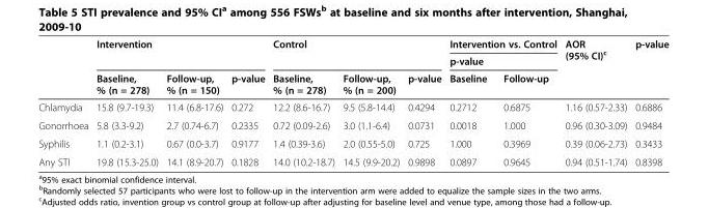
<table><thead><tr><td rowspan="3"></td><td rowspan="2" colspan="3">Intervention</td><td rowspan="2" colspan="3">Control</td><td rowspan="2" colspan="2">Intervention vs. Control p-value</td><td rowspan="3">AOR (95% CI)<sup>c</sup></td><td rowspan="3">p-value</td></tr><tr></tr><tr><td>Baseline, % (n = 278)</td><td>Follow-up, % (n = 150)</td><td>p-value</td><td>Baseline, % (n = 278)</td><td>Follow-up, % (n = 200)</td><td>p-value</td><td>Baseline</td><td>Follow-up</td></tr></thead><tbody><tr><td>Chlamydia</td><td>15.8 (9.7-19.3)</td><td>11.4 (6.8-17.6)</td><td>0.272</td><td>12.2 (8.6-16.7)</td><td>9.5 (5.8-14.4)</td><td>0.4294</td><td>0.2712</td><td>0.6875</td><td>1.16 (0.57-2.33)</td><td>0.6886</td></tr><tr><td>Gonorrhoea</td><td>5.8 (3.3-9.2)</td><td>2.7 (0.74-6.7)</td><td>0.2335</td><td>0.72 (0.09-2.6)</td><td>3.0 (1.1-6.4)</td><td>0.0731</td><td>0.0018</td><td>1.000</td><td>0.96 (0.30-3.09)</td><td>0.9484</td></tr><tr><td>Syphilis</td><td>1.1 (0.2-3.1)</td><td>0.67 (0.0-3.7)</td><td>0.9177</td><td>1.4 (0.39-3.6)</td><td>2.0 (0.55-5.0)</td><td>0.725</td><td>1.000</td><td>0.3969</td><td>0.39 (0.06-2.73)</td><td>0.3433</td></tr><tr><td>Any STI</td><td>19.8 (15.3-25.0)</td><td>14.1 (8.9-20.7)</td><td>0.1828</td><td>14.0 (10.2-18.7)</td><td>14.5 (9.9-20.2)</td><td>0.9898</td><td>0.0897</td><td>0.9645</td><td>0.94 (0.51-1.74)</td><td>0.8398</td></tr></tbody></table>